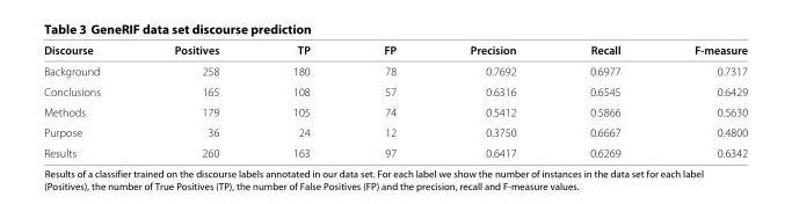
<table><thead><tr><td>Discourse</td><td>Positives</td><td>TP</td><td>FP</td><td>Precision</td><td>Recall</td><td>F-measure</td></tr></thead><tbody><tr><td>Background</td><td>258</td><td>180</td><td>78</td><td>0.7692</td><td>0.6977</td><td>0.7317</td></tr><tr><td>Conclusions</td><td>165</td><td>108</td><td>57</td><td>0.6316</td><td>0.6545</td><td>0.6429</td></tr><tr><td>Methods</td><td>179</td><td>105</td><td>74</td><td>0.5412</td><td>0.5866</td><td>0.5630</td></tr><tr><td>Purpose</td><td>36</td><td>24</td><td>12</td><td>0.3750</td><td>0.6667</td><td>0.4800</td></tr><tr><td>Results</td><td>260</td><td>163</td><td>97</td><td>0.6417</td><td>0.6269</td><td>0.6342</td></tr></tbody></table>